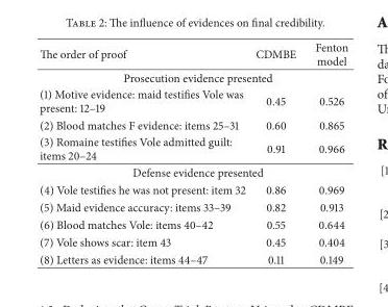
<table><thead><tr><td>The order of proof</td><td>CDMBE</td><td>Fenton model</td></tr></thead><tbody><tr><td colspan="3">Prosecution evidence presented</td></tr><tr><td>(1) Motive evidence: maid testifies Vole was present: 12–19</td><td>0.45</td><td>0.526</td></tr><tr><td>(2) Blood matches F evidence: items 25–31</td><td>0.60</td><td>0.865</td></tr><tr><td>(3) Romaine testifies Vole admitted guilt: items 20–24</td><td>0.91</td><td>0.966</td></tr><tr><td colspan="3">Defense evidence presented</td></tr><tr><td>(4) Vole testifies he was not present: item 32</td><td>0.86</td><td>0.969</td></tr><tr><td>(5) Maid evidence accuracy: items 33–39</td><td>0.82</td><td>0.913</td></tr><tr><td>(6) Blood matches Vole: items 40–42</td><td>0.55</td><td>0.644</td></tr><tr><td>(7) Vole shows scar: item 43</td><td>0.45</td><td>0.404</td></tr><tr><td>(8) Letters as evidence: items 44–47</td><td>0.11</td><td>0.149</td></tr></tbody></table>